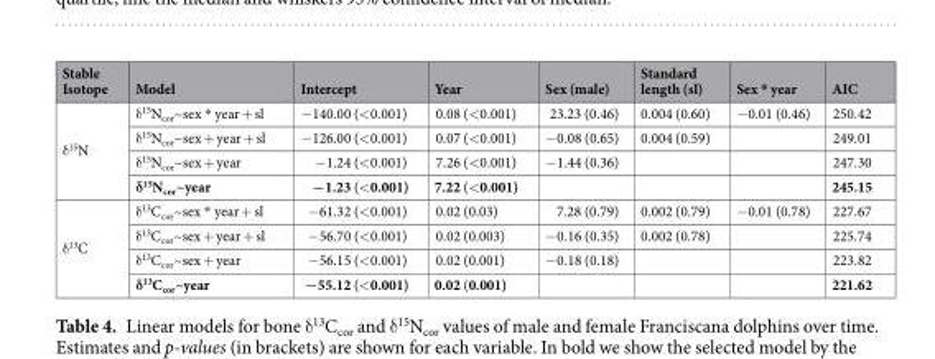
<table><thead><tr><td>Stable Isotope</td><td>Model</td><td>Intercept</td><td>Year</td><td>Sex (male)</td><td>Standard length (sl)</td><td>Sex * year</td><td>AIC</td></tr></thead><tbody><tr><td rowspan="4">δ<sup>15</sup>N</td><td>δ<sup>15</sup>N<sub>cor</sub>~sex * year + sl</td><td>−140.00 (&lt;0.001)</td><td>0.08 (&lt;0.001)</td><td>23.23 (0.46)</td><td>0.004 (0.60)</td><td>−0.01 (0.46)</td><td>250.42</td></tr><tr><td>δ<sup>15</sup>N<sub>cor</sub>~sex + year + sl</td><td>−126.00 (&lt;0.001)</td><td>0.07 (&lt;0.001)</td><td>−0.08 (0.65)</td><td>0.004 (0.59)</td><td></td><td>249.01</td></tr><tr><td>δ<sup>15</sup>N<sub>cor</sub>~sex + year</td><td>−1.24 (&lt;0.001)</td><td>7.26 (&lt;0.001)</td><td>−1.44 (0.36)</td><td></td><td></td><td>247.30</td></tr><tr><td>δ<sup>15</sup>N<sub>cor</sub>~year</td><td>−1.23 (&lt;0.001)</td><td>7.22 (&lt;0.001)</td><td></td><td></td><td></td><td>245.15</td></tr><tr><td rowspan="4">δ<sup>13</sup>C</td><td>δ<sup>13</sup>C<sub>cor</sub>~sex * year + sl</td><td>−61.32 (&lt;0.001)</td><td>0.02 (0.03)</td><td>7.28 (0.79)</td><td>0.002 (0.79)</td><td>−0.01 (0.78)</td><td>227.67</td></tr><tr><td>δ<sup>13</sup>C<sub>cor</sub>~sex + year + sl</td><td>−56.70 (&lt;0.001)</td><td>0.02 (0.003)</td><td>−0.16 (0.35)</td><td>0.002 (0.78)</td><td></td><td>225.74</td></tr><tr><td>δ<sup>13</sup>C<sub>cor</sub>~sex + year</td><td>−56.15 (&lt;0.001)</td><td>0.02 (0.001)</td><td>−0.18 (0.18)</td><td></td><td></td><td>223.82</td></tr><tr><td>δ<sup>13</sup>C<sub>cor</sub>~year</td><td>−55.12 (&lt;0.001)</td><td>0.02 (0.001)</td><td></td><td></td><td></td><td>221.62</td></tr></tbody></table>